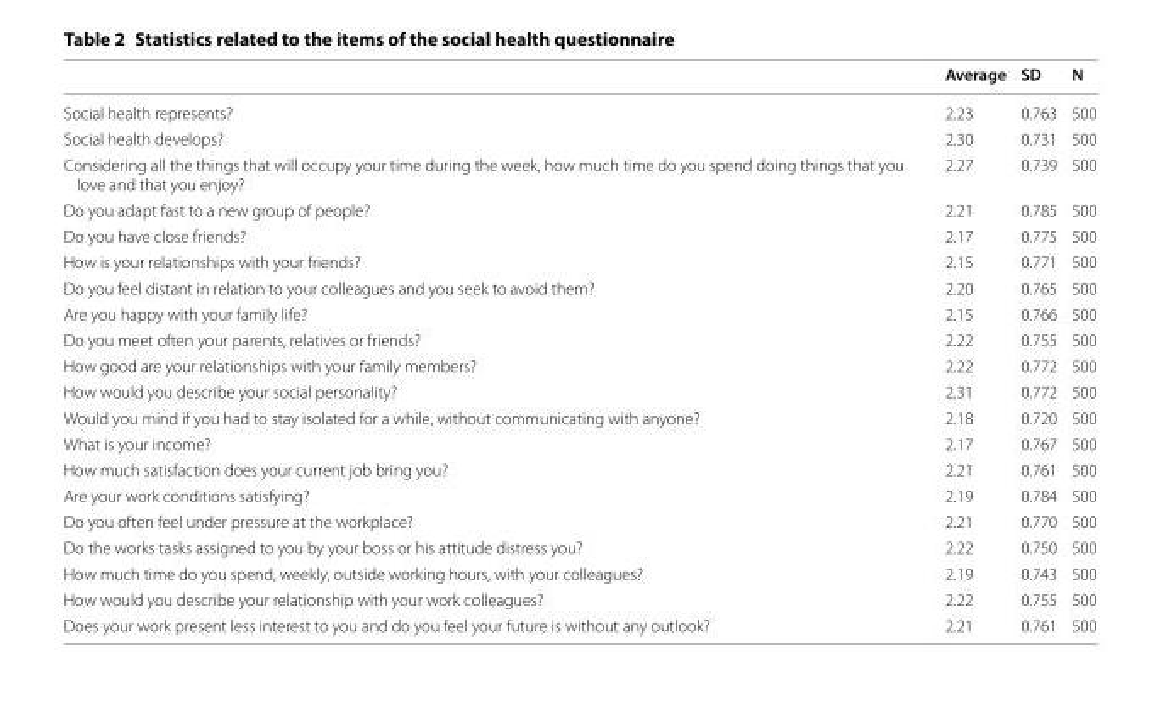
<table><thead><tr><td></td><td>Average</td><td>SD</td><td>N</td></tr></thead><tbody><tr><td>Social health represents?</td><td>2.23</td><td>0.763</td><td>500</td></tr><tr><td>Social health develops?</td><td>2.30</td><td>0.731</td><td>500</td></tr><tr><td>Considering all the things that will occupy your time during the week, how much time do you spend doing things that you love and that you enjoy?</td><td>2.27</td><td>0.739</td><td>500</td></tr><tr><td>Do you adapt fast to a new group of people?</td><td>2.21</td><td>0.785</td><td>500</td></tr><tr><td>Do you have close friends?</td><td>2.17</td><td>0.775</td><td>500</td></tr><tr><td>How is your relationships with your friends?</td><td>2.15</td><td>0.771</td><td>500</td></tr><tr><td>Do you feel distant in relation to your colleagues and you seek to avoid them?</td><td>2.20</td><td>0.765</td><td>500</td></tr><tr><td>Are you happy with your family life?</td><td>2.15</td><td>0.766</td><td>500</td></tr><tr><td>Do you meet often your parents, relatives or friends?</td><td>2.22</td><td>0.755</td><td>500</td></tr><tr><td>How good are your relationships with your family members?</td><td>2.22</td><td>0.772</td><td>500</td></tr><tr><td>How would you describe your social personality?</td><td>2.31</td><td>0.772</td><td>500</td></tr><tr><td>Would you mind if you had to stay isolated for a while, without communicating with anyone?</td><td>2.18</td><td>0.720</td><td>500</td></tr><tr><td>What is your income?</td><td>2.17</td><td>0.767</td><td>500</td></tr><tr><td>How much satisfaction does your current job bring you?</td><td>2.21</td><td>0.761</td><td>500</td></tr><tr><td>Are your work conditions satisfying?</td><td>2.19</td><td>0.784</td><td>500</td></tr><tr><td>Do you often feel under pressure at the workplace?</td><td>2.21</td><td>0.770</td><td>500</td></tr><tr><td>Do the works tasks assigned to you by your boss or his attitude distress you?</td><td>2.22</td><td>0.750</td><td>500</td></tr><tr><td>How much time do you spend, weekly, outside working hours, with your colleagues?</td><td>2.19</td><td>0.743</td><td>500</td></tr><tr><td>How would you describe your relationship with your work colleagues?</td><td>2.22</td><td>0.755</td><td>500</td></tr><tr><td>Does your work present less interest to you and do you feel your future is without any outlook?</td><td>2.21</td><td>0.761</td><td>500</td></tr></tbody></table>